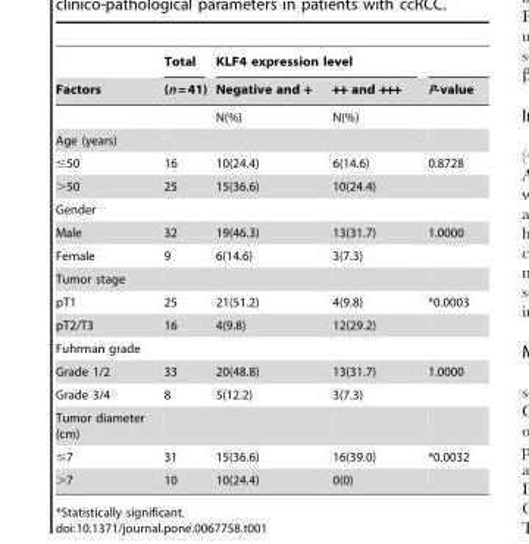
<table><thead><tr><td rowspan="2">Factors</td><td rowspan="2">Total (n = 41)</td><td colspan="2">KLF4 expression level</td><td rowspan="2">P-value</td></tr><tr><td>Negative and +</td><td>++ and +++</td></tr></thead><tbody><tr><td></td><td></td><td>N(%)</td><td>N(%)</td><td></td></tr><tr><td colspan="5">Age (years)</td></tr><tr><td>≤50</td><td>16</td><td>10(24.4)</td><td>6(14.6)</td><td>0.8728</td></tr><tr><td>&gt;50</td><td>25</td><td>15(36.6)</td><td>10(24.4)</td><td></td></tr><tr><td colspan="5">Gender</td></tr><tr><td>Male</td><td>32</td><td>19(46.3)</td><td>13(31.7)</td><td>1.0000</td></tr><tr><td>Female</td><td>9</td><td>6(14.6)</td><td>3(7.3)</td><td></td></tr><tr><td colspan="5">Tumor stage</td></tr><tr><td>pT1</td><td>25</td><td>21(51.2)</td><td>4(9.8)</td><td>*0.0003</td></tr><tr><td>pT2/T3</td><td>16</td><td>4(9.8)</td><td>12(29.2)</td><td></td></tr><tr><td colspan="5">Fuhrman grade</td></tr><tr><td>Grade 1/2</td><td>33</td><td>20(48.8)</td><td>13(31.7)</td><td>1.0000</td></tr><tr><td>Grade 3/4</td><td>8</td><td>5(12.2)</td><td>3(7.3)</td><td></td></tr><tr><td colspan="5">Tumor diameter (cm)</td></tr><tr><td>≤7</td><td>31</td><td>15(36.6)</td><td>16(39.0)</td><td>*0.0032</td></tr><tr><td>&gt;7</td><td>10</td><td>10(24.4)</td><td>0(0)</td><td></td></tr></tbody></table>